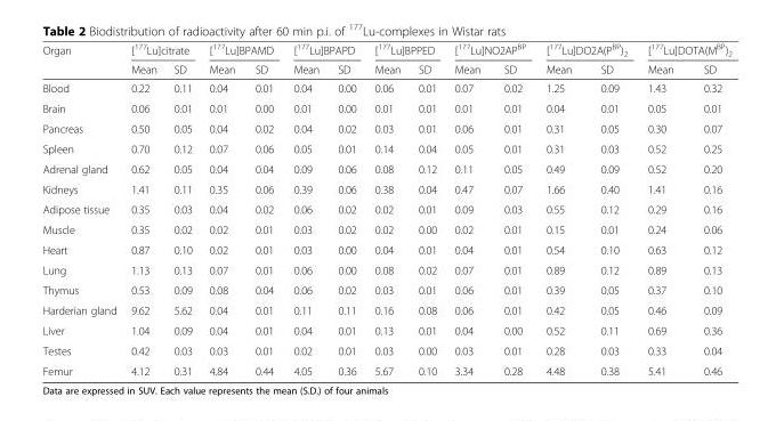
<table><thead><tr><td rowspan="2">Organ</td><td colspan="2">[<sup>177</sup>Lu]citrate</td><td colspan="2">[<sup>177</sup>Lu]BPAMD</td><td colspan="2">[<sup>177</sup>Lu]BPAPD</td><td colspan="2">[<sup>177</sup>Lu]BPPED</td><td colspan="2">[<sup>177</sup>Lu]NO2AP<sup>BP</sup></td><td colspan="2">[<sup>177</sup>Lu]DO2A(P<sup>BP</sup>)<sub>2</sub></td><td colspan="2">[<sup>177</sup>Lu]DOTA(M<sup>BP</sup>)<sub>2</sub></td></tr><tr><td>Mean</td><td>SD</td><td>Mean</td><td>SD</td><td>Mean</td><td>SD</td><td>Mean</td><td>SD</td><td>Mean</td><td>SD</td><td>Mean</td><td>SD</td><td>Mean</td><td>SD</td></tr></thead><tbody><tr><td>Blood</td><td>0.22</td><td>0.11</td><td>0.04</td><td>0.01</td><td>0.04</td><td>0.00</td><td>0.06</td><td>0.01</td><td>0.07</td><td>0.02</td><td>1.25</td><td>0.09</td><td>1.43</td><td>0.32</td></tr><tr><td>Brain</td><td>0.06</td><td>0.01</td><td>0.01</td><td>0.00</td><td>0.01</td><td>0.00</td><td>0.01</td><td>0.01</td><td>0.01</td><td>0.01</td><td>0.04</td><td>0.01</td><td>0.05</td><td>0.01</td></tr><tr><td>Pancreas</td><td>0.50</td><td>0.05</td><td>0.04</td><td>0.02</td><td>0.04</td><td>0.02</td><td>0.03</td><td>0.01</td><td>0.06</td><td>0.01</td><td>0.31</td><td>0.05</td><td>0.30</td><td>0.07</td></tr><tr><td>Spleen</td><td>0.70</td><td>0.12</td><td>0.07</td><td>0.06</td><td>0.05</td><td>0.01</td><td>0.14</td><td>0.04</td><td>0.05</td><td>0.01</td><td>0.31</td><td>0.03</td><td>0.52</td><td>0.25</td></tr><tr><td>Adrenal gland</td><td>0.62</td><td>0.05</td><td>0.04</td><td>0.04</td><td>0.09</td><td>0.06</td><td>0.08</td><td>0.12</td><td>0.11</td><td>0.05</td><td>0.49</td><td>0.09</td><td>0.52</td><td>0.20</td></tr><tr><td>Kidneys</td><td>1.41</td><td>0.11</td><td>0.35</td><td>0.06</td><td>0.39</td><td>0.06</td><td>0.38</td><td>0.04</td><td>0.47</td><td>0.07</td><td>1.66</td><td>0.40</td><td>1.41</td><td>0.16</td></tr><tr><td>Adipose tissue</td><td>0.35</td><td>0.03</td><td>0.04</td><td>0.02</td><td>0.06</td><td>0.02</td><td>0.02</td><td>0.01</td><td>0.09</td><td>0.03</td><td>0.55</td><td>0.12</td><td>0.29</td><td>0.16</td></tr><tr><td>Muscle</td><td>0.35</td><td>0.02</td><td>0.02</td><td>0.01</td><td>0.03</td><td>0.02</td><td>0.02</td><td>0.00</td><td>0.02</td><td>0.01</td><td>0.15</td><td>0.01</td><td>0.24</td><td>0.06</td></tr><tr><td>Heart</td><td>0.87</td><td>0.10</td><td>0.02</td><td>0.01</td><td>0.03</td><td>0.00</td><td>0.04</td><td>0.01</td><td>0.04</td><td>0.01</td><td>0.54</td><td>0.10</td><td>0.63</td><td>0.12</td></tr><tr><td>Lung</td><td>1.13</td><td>0.13</td><td>0.07</td><td>0.01</td><td>0.06</td><td>0.00</td><td>0.08</td><td>0.02</td><td>0.07</td><td>0.01</td><td>0.89</td><td>0.12</td><td>0.89</td><td>0.13</td></tr><tr><td>Thymus</td><td>0.53</td><td>0.09</td><td>0.08</td><td>0.04</td><td>0.06</td><td>0.02</td><td>0.03</td><td>0.01</td><td>0.06</td><td>0.01</td><td>0.39</td><td>0.05</td><td>0.37</td><td>0.10</td></tr><tr><td>Harderian gland</td><td>9.62</td><td>5.62</td><td>0.04</td><td>0.01</td><td>0.11</td><td>0.11</td><td>0.16</td><td>0.08</td><td>0.06</td><td>0.01</td><td>0.42</td><td>0.05</td><td>0.46</td><td>0.09</td></tr><tr><td>Liver</td><td>1.04</td><td>0.09</td><td>0.04</td><td>0.01</td><td>0.04</td><td>0.01</td><td>0.13</td><td>0.01</td><td>0.04</td><td>0.00</td><td>0.52</td><td>0.11</td><td>0.69</td><td>0.36</td></tr><tr><td>Testes</td><td>0.42</td><td>0.03</td><td>0.03</td><td>0.01</td><td>0.02</td><td>0.01</td><td>0.03</td><td>0.00</td><td>0.03</td><td>0.01</td><td>0.28</td><td>0.03</td><td>0.33</td><td>0.04</td></tr><tr><td>Femur</td><td>4.12</td><td>0.31</td><td>4.84</td><td>0.44</td><td>4.05</td><td>0.36</td><td>5.67</td><td>0.10</td><td>3.34</td><td>0.28</td><td>4.48</td><td>0.38</td><td>5.41</td><td>0.46</td></tr></tbody></table>